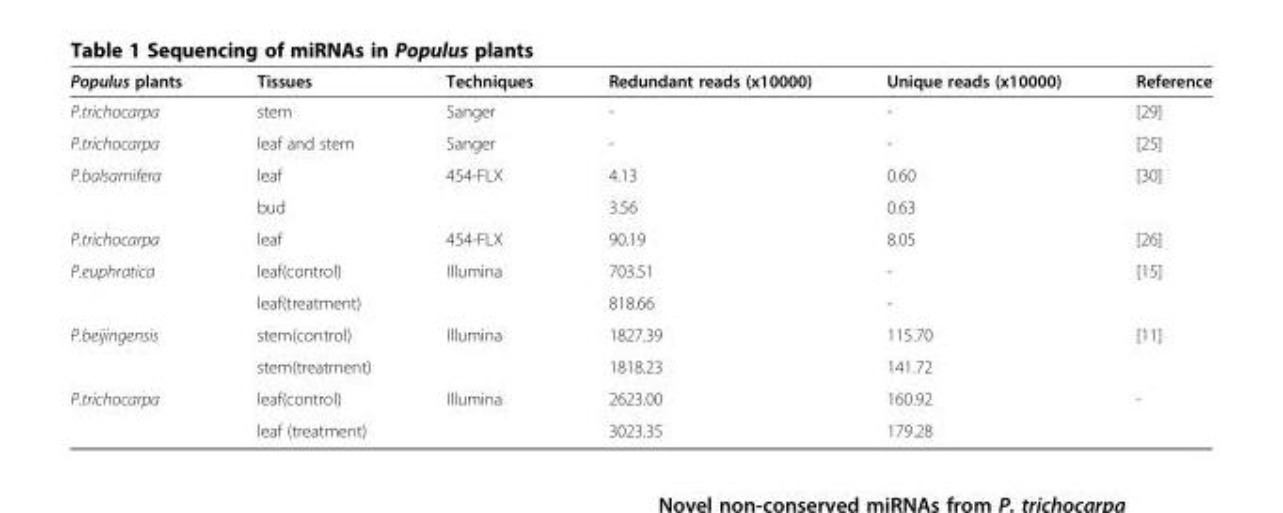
<table><thead><tr><td>Populus plants</td><td>Tissues</td><td>Techniques</td><td>Redundant reads (x10000)</td><td>Unique reads (x10000)</td><td>Reference</td></tr></thead><tbody><tr><td>P.trichocarpa</td><td>stem</td><td>Sanger</td><td>-</td><td>-</td><td>[29]</td></tr><tr><td>P.trichocarpa</td><td>leaf and stem</td><td>Sanger</td><td>-</td><td>-</td><td>[25]</td></tr><tr><td rowspan="2">P.balsamifera</td><td>leaf</td><td rowspan="2">454-FLX</td><td>4.13</td><td>0.60</td><td rowspan="2">[30]</td></tr><tr><td>bud</td><td>3.56</td><td>0.63</td></tr><tr><td>P.trichocarpa</td><td>leaf</td><td>454-FLX</td><td>90.19</td><td>8.05</td><td>[26]</td></tr><tr><td rowspan="2">P.euphratica</td><td>leaf(control)</td><td rowspan="2">Illumina</td><td>703.51</td><td>-</td><td rowspan="2">[15]</td></tr><tr><td>leaf(treatment)</td><td>818.66</td><td>-</td></tr><tr><td rowspan="2">P.beijingensis</td><td>stem(control)</td><td>Illumina</td><td>1827.39</td><td>115.70</td><td rowspan="2">[11]</td></tr><tr><td>stem(treatment)</td><td></td><td>1818.23</td><td>141.72</td></tr><tr><td rowspan="2">P.trichocarpa</td><td>leaf(control)</td><td rowspan="2">Illumina</td><td>2623.00</td><td>160.92</td><td rowspan="2">-</td></tr><tr><td>leaf (treatment)</td><td>3023.35</td><td>179.28</td></tr></tbody></table>